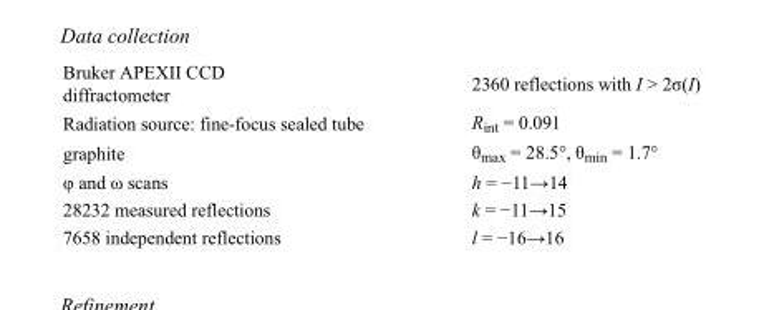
<table><tbody><tr><td>Bruker APEXII CCD diffractometer</td><td>2360 reflections with I &gt; 2σ(I)</td></tr><tr><td>Radiation source: fine-focus sealed tube</td><td>R<sub>int</sub> = 0.091</td></tr><tr><td>graphite</td><td>θ<sub>max</sub> = 28.5°, θ<sub>min</sub> = 1.7°</td></tr><tr><td>φ and ω scans</td><td>h = −11→14</td></tr><tr><td>28232 measured reflections</td><td>k = −11→15</td></tr><tr><td>7658 independent reflections</td><td>l = −16→16</td></tr></tbody></table>